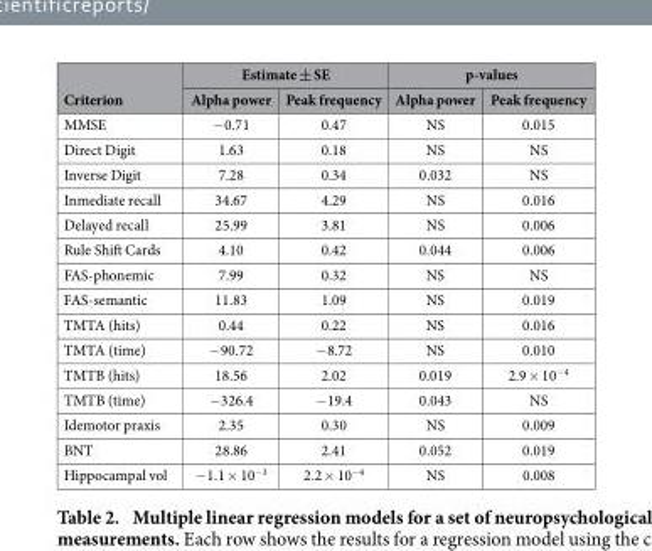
<table><thead><tr><td rowspan="2">Criterion</td><td colspan="2">Estimate ± SE</td><td colspan="2">p-values</td></tr><tr><td>Alpha power</td><td>Peak frequency</td><td>Alpha power</td><td>Peak frequency</td></tr></thead><tbody><tr><td>MMSE</td><td>− 0.71</td><td>0.47</td><td>NS</td><td>0.015</td></tr><tr><td>Direct Digit</td><td>1.63</td><td>0.18</td><td>NS</td><td>NS</td></tr><tr><td>Inverse Digit</td><td>7.28</td><td>0.34</td><td>0.032</td><td>NS</td></tr><tr><td>Inmediate recall</td><td>34.67</td><td>4.29</td><td>NS</td><td>0.016</td></tr><tr><td>Delayed recall</td><td>25.99</td><td>3.81</td><td>NS</td><td>0.006</td></tr><tr><td>Rule Shift Cards</td><td>4.10</td><td>0.42</td><td>0.044</td><td>0.006</td></tr><tr><td>FAS-phonemic</td><td>7.99</td><td>0.32</td><td>NS</td><td>NS</td></tr><tr><td>FAS-semantic</td><td>11.83</td><td>1.09</td><td>NS</td><td>0.019</td></tr><tr><td>TMTA (hits)</td><td>0.44</td><td>0.22</td><td>NS</td><td>0.016</td></tr><tr><td>TMTA (time)</td><td>− 90.72</td><td>− 8.72</td><td>NS</td><td>0.010</td></tr><tr><td>TMTB (hits)</td><td>18.56</td><td>2.02</td><td>0.019</td><td>2.9 × 10<sup>−4</sup></td></tr><tr><td>TMTB (time)</td><td>− 326.4</td><td>− 19.4</td><td>0.043</td><td>NS</td></tr><tr><td>Idemotor praxis</td><td>2.35</td><td>0.30</td><td>NS</td><td>0.009</td></tr><tr><td>BNT</td><td>28.86</td><td>2.41</td><td>0.052</td><td>0.019</td></tr><tr><td>Hippocampal vol</td><td>− 1.1 × 10<sup>−3</sup></td><td>2.2 × 10<sup>−4</sup></td><td>NS</td><td>0.008</td></tr></tbody></table>